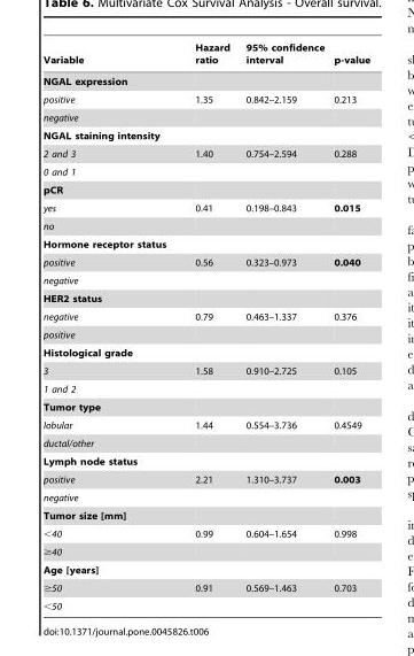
<table><thead><tr><td>Variable</td><td>Hazard ratio</td><td>95% confidence interval</td><td>p-value</td></tr></thead><tbody><tr><td colspan="4">NGAL expression</td></tr><tr><td>positive</td><td>1.35</td><td>0.842–2.159</td><td>0.213</td></tr><tr><td colspan="4">negative</td></tr><tr><td colspan="4">NGAL staining intensity</td></tr><tr><td>2 and 3</td><td>1.40</td><td>0.754–2.594</td><td>0.288</td></tr><tr><td colspan="4">0 and 1</td></tr><tr><td colspan="4">pCR</td></tr><tr><td>yes</td><td>0.41</td><td>0.198–0.843</td><td>0.015</td></tr><tr><td colspan="4">no</td></tr><tr><td colspan="4">Hormone receptor status</td></tr><tr><td>positive</td><td>0.56</td><td>0.323–0.973</td><td>0.040</td></tr><tr><td colspan="4">negative</td></tr><tr><td colspan="4">HER2 status</td></tr><tr><td>negative</td><td>0.79</td><td>0.463–1.337</td><td>0.376</td></tr><tr><td colspan="4">positive</td></tr><tr><td colspan="4">Histological grade</td></tr><tr><td>3</td><td>1.58</td><td>0.910–2.725</td><td>0.105</td></tr><tr><td colspan="4">1 and 2</td></tr><tr><td colspan="4">Tumor type</td></tr><tr><td>lobular</td><td>1.44</td><td>0.554–3.736</td><td>0.4549</td></tr><tr><td colspan="4">ductal/other</td></tr><tr><td colspan="4">Lymph node status</td></tr><tr><td>positive</td><td>2.21</td><td>1.310–3.737</td><td>0.003</td></tr><tr><td colspan="4">negative</td></tr><tr><td colspan="4">Tumor size [mm]</td></tr><tr><td>&lt;40</td><td>0.99</td><td>0.604–1.654</td><td>0.998</td></tr><tr><td colspan="4">≥40</td></tr><tr><td colspan="4">Age [years]</td></tr><tr><td>≥50</td><td>0.91</td><td>0.569–1.463</td><td>0.703</td></tr><tr><td>&lt;50</td><td></td><td></td><td></td></tr></tbody></table>